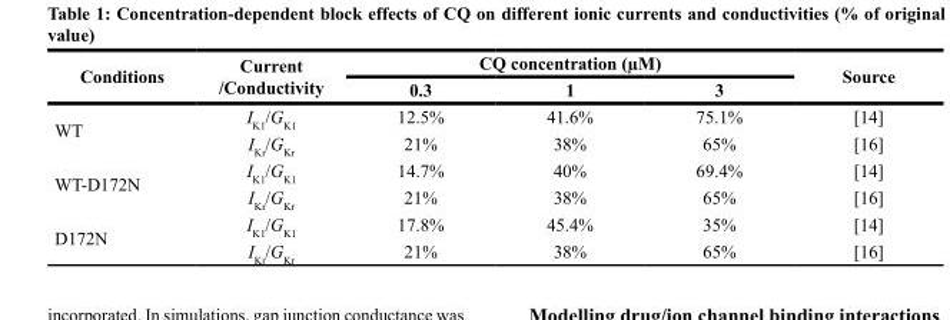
<table><thead><tr><td rowspan="2">Conditions</td><td rowspan="2">Current /Conductivity</td><td colspan="3">CQ concentration (µM)</td><td rowspan="2">Source</td></tr><tr><td>0.3</td><td>1</td><td>3</td></tr></thead><tbody><tr><td rowspan="2">WT</td><td>I<sub>K1</sub>/G<sub>K1</sub></td><td>12.5%</td><td>41.6%</td><td>75.1%</td><td>[14]</td></tr><tr><td>I<sub>Kr</sub>/G<sub>Kr</sub></td><td>21%</td><td>38%</td><td>65%</td><td>[16]</td></tr><tr><td rowspan="2">WT-D172N</td><td>I<sub>K1</sub>/G<sub>K1</sub></td><td>14.7%</td><td>40%</td><td>69.4%</td><td>[14]</td></tr><tr><td>I<sub>Kr</sub>/G<sub>Kr</sub></td><td>21%</td><td>38%</td><td>65%</td><td>[16]</td></tr><tr><td rowspan="2">D172N</td><td>I<sub>K1</sub>/G<sub>K1</sub></td><td>17.8%</td><td>45.4%</td><td>35%</td><td>[14]</td></tr><tr><td>I<sub>Kr</sub>/G<sub>Kr</sub></td><td>21%</td><td>38%</td><td>65%</td><td>[16]</td></tr></tbody></table>